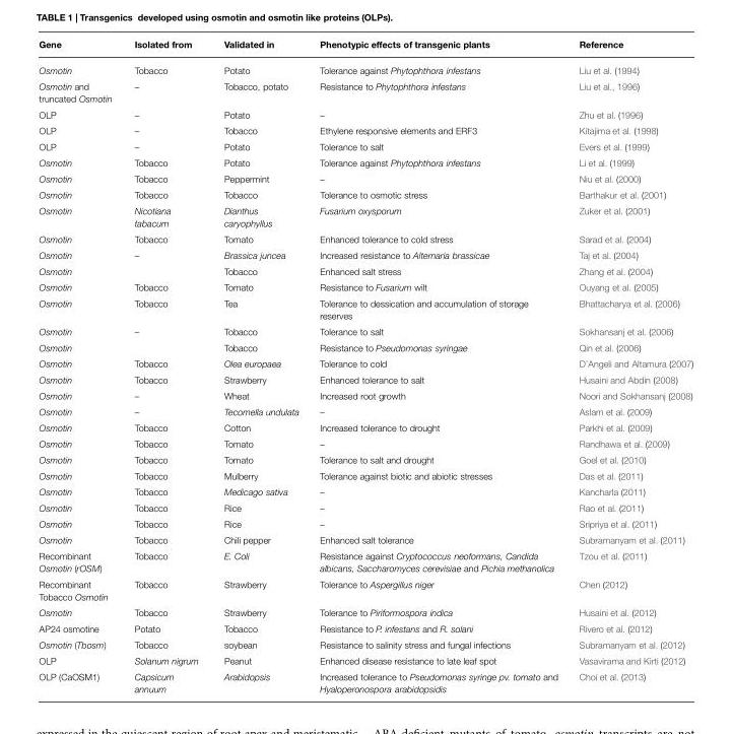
<table><thead><tr><td>Gene</td><td>Isolated from</td><td>Validated in</td><td>Phenotypic effects of transgenic plants</td><td>Reference</td></tr></thead><tbody><tr><td>Osmotin</td><td>Tobacco</td><td>Potato</td><td>Tolerance against Phytophthora infestans</td><td>Liu et al. (1994)</td></tr><tr><td>Osmotin and truncated Osmotin</td><td>–</td><td>Tobacco, potato</td><td>Resistance to Phytophthora infestans</td><td>Liu et al., 1996)</td></tr><tr><td>OLP</td><td>–</td><td>Potato</td><td>–</td><td>Zhu et al. (1996)</td></tr><tr><td>OLP</td><td>–</td><td>Tobacco</td><td>Ethylene responsive elements and ERF3</td><td>Kitajima et al. (1998)</td></tr><tr><td>OLP</td><td>–</td><td>Potato</td><td>Tolerance to salt</td><td>Evers et al. (1999)</td></tr><tr><td>Osmotin</td><td>Tobacco</td><td>Potato</td><td>Tolerance against Phytophthora infestans</td><td>Li et al. (1999)</td></tr><tr><td>Osmotin</td><td>Tobacco</td><td>Peppermint</td><td>–</td><td>Niu et al. (2000)</td></tr><tr><td>Osmotin</td><td>Tobacco</td><td>Tobacco</td><td>Tolerance to osmotic stress</td><td>Barthakur et al. (2001)</td></tr><tr><td>Osmotin</td><td>Nicotiana tabacum</td><td>Dianthus caryophyllus</td><td>Fusarium oxysporum</td><td>Zuker et al. (2001)</td></tr><tr><td>Osmotin</td><td>Tobacco</td><td>Tomato</td><td>Enhanced tolerance to cold stress</td><td>Sarad et al. (2004)</td></tr><tr><td>Osmotin</td><td>–</td><td>Brassica juncea</td><td>Increased resistance to Alternaria brassicae</td><td>Taj et al. (2004)</td></tr><tr><td>Osmotin</td><td></td><td>Tobacco</td><td>Enhanced salt stress</td><td>Zhang et al. (2004)</td></tr><tr><td>Osmotin</td><td>Tobacco</td><td>Tomato</td><td>Resistance to Fusarium wilt</td><td>Ouyang et al. (2005)</td></tr><tr><td>Osmotin</td><td>Tobacco</td><td>Tea</td><td>Tolerance to dessication and accumulation of storage reserves</td><td>Bhattacharya et al. (2006)</td></tr><tr><td>Osmotin</td><td>–</td><td>Tobacco</td><td>Tolerance to salt</td><td>Sokhansanj et al. (2006)</td></tr><tr><td>Osmotin</td><td></td><td>Tobacco</td><td>Resistance to Pseudomonas syringae</td><td>Qin et al. (2006)</td></tr><tr><td>Osmotin</td><td>Tobacco</td><td>Olea europaea</td><td>Tolerance to cold</td><td>D’Angeli and Altamura (2007)</td></tr><tr><td>Osmotin</td><td>Tobacco</td><td>Strawberry</td><td>Enhanced tolerance to salt</td><td>Husaini and Abdin (2008)</td></tr><tr><td>Osmotin</td><td>–</td><td>Wheat</td><td>Increased root growth</td><td>Noori and Sokhansanj (2008)</td></tr><tr><td>Osmotin</td><td>–</td><td>Tecomella undulata</td><td>–</td><td>Aslam et al. (2009)</td></tr><tr><td>Osmotin</td><td>Tobacco</td><td>Cotton</td><td>Increased tolerance to drought</td><td>Parkhi et al. (2009)</td></tr><tr><td>Osmotin</td><td>Tobacco</td><td>Tomato</td><td>–</td><td>Randhawa et al. (2009)</td></tr><tr><td>Osmotin</td><td>Tobacco</td><td>Tomato</td><td>Tolerance to salt and drought</td><td>Goel et al. (2010)</td></tr><tr><td>Osmotin</td><td>Tobacco</td><td>Mulberry</td><td>Tolerance against biotic and abiotic stresses</td><td>Das et al. (2011)</td></tr><tr><td>Osmotin</td><td>Tobacco</td><td>Medicago sativa</td><td>–</td><td>Kancharla (2011)</td></tr><tr><td>Osmotin</td><td>Tobacco</td><td>Rice</td><td>–</td><td>Rao et al. (2011)</td></tr><tr><td>Osmotin</td><td>Tobacco</td><td>Rice</td><td>–</td><td>Sripriya et al. (2011)</td></tr><tr><td>Osmotin</td><td>Tobacco</td><td>Chili pepper</td><td>Enhanced salt tolerance</td><td>Subramanyam et al. (2011)</td></tr><tr><td>Recombinant Osmotin (rOSM)</td><td>Tobacco</td><td>E. Coli</td><td>Resistance against Cryptococcus neoformans, Candida albicans, Saccharomyces cerevisiae and Pichia methanolica</td><td>Tzou et al. (2011)</td></tr><tr><td>Recombinant Tobacco Osmotin</td><td>Tobacco</td><td>Strawberry</td><td>Tolerance to Aspergillus niger</td><td>Chen (2012)</td></tr><tr><td>Osmotin</td><td>Tobacco</td><td>Strawberry</td><td>Tolerance to Piriformospora indica</td><td>Husaini et al. (2012)</td></tr><tr><td>AP24 osmotine</td><td>Potato</td><td>Tobacco</td><td>Resistance to P. infestans and R. solani</td><td>Rivero et al. (2012)</td></tr><tr><td>Osmotin (Tbosm)</td><td>Tobacco</td><td>soybean</td><td>Resistance to salinity stress and fungal infections</td><td>Subramanyam et al. (2012)</td></tr><tr><td>OLP</td><td>Solanum nigrum</td><td>Peanut</td><td>Enhanced disease resistance to late leaf spot</td><td>Vasavirama and Kirti (2012)</td></tr><tr><td>OLP (CaOSM1)</td><td>Capsicum annuum</td><td>Arabidopsis</td><td>Increased tolerance to Pseudomonas syringe pv. tomato and Hyaloperonospora arabidopsidis</td><td>Choi et al. (2013)</td></tr></tbody></table>